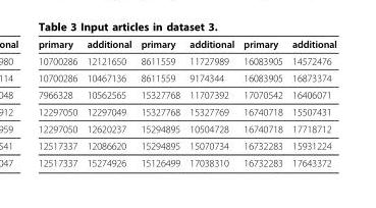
<table><thead><tr><td>primary</td><td>additional</td><td>primary</td><td>additional</td><td>primary</td><td>additional</td></tr></thead><tbody><tr><td>10700286</td><td>12121650</td><td>8611559</td><td>11727989</td><td>16083905</td><td>14572476</td></tr><tr><td>10700286</td><td>10467136</td><td>8611559</td><td>9174344</td><td>16083905</td><td>16873374</td></tr><tr><td>7966328</td><td>10562565</td><td>15327768</td><td>11707392</td><td>17070542</td><td>16406071</td></tr><tr><td>12297050</td><td>12297049</td><td>15327768</td><td>15327769</td><td>16740718</td><td>15507431</td></tr><tr><td>12297050</td><td>12620237</td><td>15294895</td><td>10504728</td><td>16740718</td><td>17718712</td></tr><tr><td>12517337</td><td>12086620</td><td>15294895</td><td>15070734</td><td>16732283</td><td>15931224</td></tr><tr><td>12517337</td><td>15274926</td><td>15126499</td><td>17038310</td><td>16732283</td><td>17643372</td></tr></tbody></table>